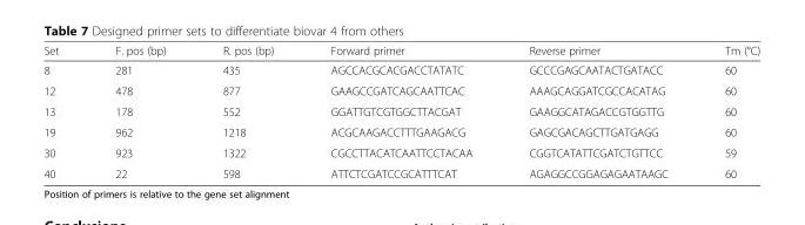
<table><thead><tr><td>Set</td><td>F. pos (bp)</td><td>R. pos (bp)</td><td>Forward primer</td><td>Reverse primer</td><td>Tm (°C)</td></tr></thead><tbody><tr><td>8</td><td>281</td><td>435</td><td>AGCCACGCACGACCTATATC</td><td>GCCCGAGCAATACTGATACC</td><td>60</td></tr><tr><td>12</td><td>478</td><td>877</td><td>GAAGCCGATCAGCAATTCAC</td><td>AAAGCAGGATCGCCACATAG</td><td>60</td></tr><tr><td>13</td><td>178</td><td>552</td><td>GGATTGTCGTGGCTTACGAT</td><td>GAAGGCATAGACCGTGGTTG</td><td>60</td></tr><tr><td>19</td><td>962</td><td>1218</td><td>ACGCAAGACCTTTGAAGACG</td><td>GAGCGACAGCTTGATGAGG</td><td>60</td></tr><tr><td>30</td><td>923</td><td>1322</td><td>CGCCTTACATCAATTCCTACAA</td><td>CGGTCATATTCGATCTGTTCC</td><td>59</td></tr><tr><td>40</td><td>22</td><td>598</td><td>ATTCTCGATCCGCATTTCAT</td><td>AGAGGCCGGAGAGAATAAGC</td><td>60</td></tr></tbody></table>